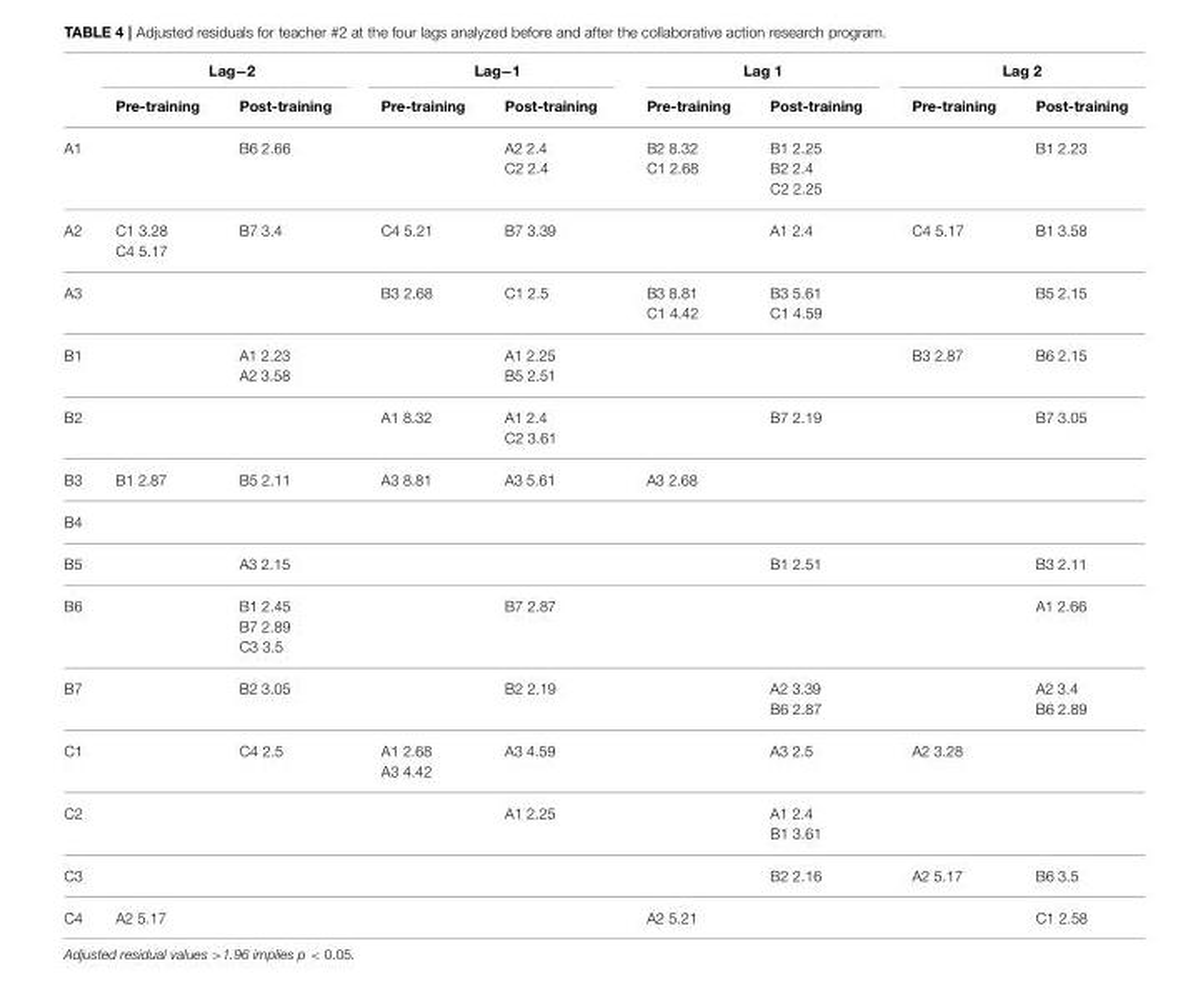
<table><thead><tr><td rowspan="2"></td><td colspan="2">Lag−2</td><td colspan="2">Lag−1</td><td colspan="2">Lag 1</td><td colspan="2">Lag 2</td></tr><tr><td>Pre-training</td><td>Post-training</td><td>Pre-training</td><td>Post-training</td><td>Pre-training</td><td>Post-training</td><td>Pre-training</td><td>Post-training</td></tr></thead><tbody><tr><td>A1</td><td></td><td>B6 2.66</td><td></td><td>A2 2.4 C2 2.4</td><td>B2 8.32 C1 2.68</td><td>B1 2.25 B2 2.4 C2 2.25</td><td></td><td>B1 2.23</td></tr><tr><td>A2</td><td>C1 3.28 C4 5.17</td><td>B7 3.4</td><td>C4 5.21</td><td>B7 3.39</td><td></td><td>A1 2.4</td><td>C4 5.17</td><td>B1 3.58</td></tr><tr><td>A3</td><td></td><td></td><td>B3 2.68</td><td>C1 2.5</td><td>B3 8.81 C1 4.42</td><td>B3 5.61 C1 4.59</td><td></td><td>B5 2.15</td></tr><tr><td>B1</td><td></td><td>A1 2.23 A2 3.58</td><td></td><td>A1 2.25 B5 2.51</td><td></td><td></td><td>B3 2.87</td><td>B6 2.15</td></tr><tr><td>B2</td><td></td><td></td><td>A1 8.32</td><td>A1 2.4 C2 3.61</td><td></td><td>B7 2.19</td><td></td><td>B7 3.05</td></tr><tr><td>B3</td><td>B1 2.87</td><td>B5 2.11</td><td>A3 8.81</td><td>A3 5.61</td><td>A3 2.68</td><td></td><td></td><td></td></tr><tr><td colspan="9">B4</td></tr><tr><td>B5</td><td></td><td>A3 2.15</td><td></td><td></td><td></td><td>B1 2.51</td><td></td><td>B3 2.11</td></tr><tr><td>B6</td><td></td><td>B1 2.45 B7 2.89 C3 3.5</td><td></td><td>B7 2.87</td><td></td><td></td><td></td><td>A1 2.66</td></tr><tr><td>B7</td><td></td><td>B2 3.05</td><td></td><td>B2 2.19</td><td></td><td>A2 3.39 B6 2.87</td><td></td><td>A2 3.4 B6 2.89</td></tr><tr><td>C1</td><td></td><td>C4 2.5</td><td>A1 2.68 A3 4.42</td><td>A3 4.59</td><td></td><td>A3 2.5</td><td>A2 3.28</td><td></td></tr><tr><td>C2</td><td></td><td></td><td></td><td>A1 2.25</td><td></td><td>A1 2.4 B1 3.61</td><td></td><td></td></tr><tr><td>C3</td><td></td><td></td><td></td><td></td><td></td><td>B2 2.16</td><td>A2 5.17</td><td>B6 3.5</td></tr><tr><td>C4</td><td>A2 5.17</td><td></td><td></td><td></td><td>A2 5.21</td><td></td><td></td><td>C1 2.58</td></tr></tbody></table>